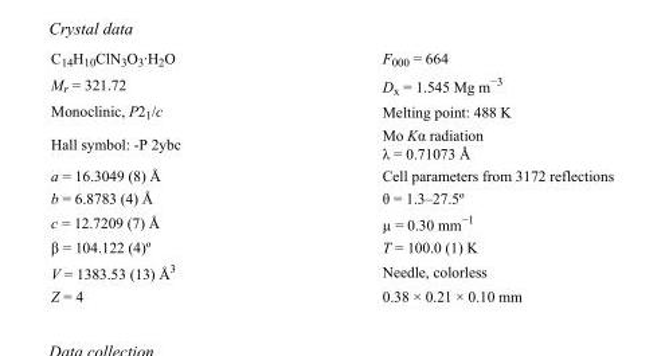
<table><tbody><tr><td>C<sub>14</sub>H<sub>10</sub>ClN<sub>3</sub>O<sub>3</sub>·H<sub>2</sub>O</td><td>F<sub>000</sub> = 664</td></tr><tr><td>M<sub>r</sub> = 321.72</td><td>D<sub>x</sub> = 1.545 Mg m<sup>−3</sup></td></tr><tr><td>Monoclinic, P2<sub>1</sub>/c</td><td>Melting point: 488 K</td></tr><tr><td>Hall symbol: -P 2ybc</td><td>Mo Kα radiation λ = 0.71073 Å</td></tr><tr><td>a = 16.3049 (8) Å</td><td>Cell parameters from 3172 reflections</td></tr><tr><td>b = 6.8783 (4) Å</td><td>θ = 1.3–27.5º</td></tr><tr><td>c = 12.7209 (7) Å</td><td>µ = 0.30 mm<sup>−1</sup></td></tr><tr><td>β = 104.122 (4)º</td><td>T = 100.0 (1) K</td></tr><tr><td>V = 1383.53 (13) Å<sup>3</sup></td><td>Needle, colorless</td></tr><tr><td>Z = 4</td><td>0.38 × 0.21 × 0.10 mm</td></tr></tbody></table>